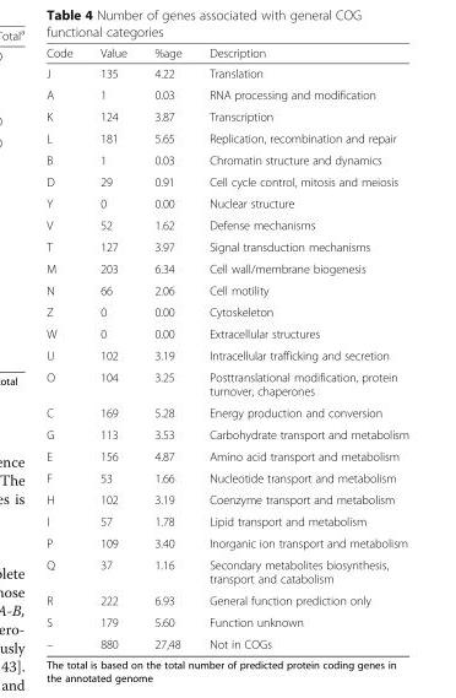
<table><thead><tr><td>Code</td><td>Value</td><td>%age</td><td>Description</td></tr></thead><tbody><tr><td>J</td><td>135</td><td>4.22</td><td>Translation</td></tr><tr><td>A</td><td>1</td><td>0.03</td><td>RNA processing and modification</td></tr><tr><td>K</td><td>124</td><td>3.87</td><td>Transcription</td></tr><tr><td>L</td><td>181</td><td>5.65</td><td>Replication, recombination and repair</td></tr><tr><td>B</td><td>1</td><td>0.03</td><td>Chromatin structure and dynamics</td></tr><tr><td>D</td><td>29</td><td>0.91</td><td>Cell cycle control, mitosis and meiosis</td></tr><tr><td>Y</td><td>0</td><td>0.00</td><td>Nuclear structure</td></tr><tr><td>V</td><td>52</td><td>1.62</td><td>Defense mechanisms</td></tr><tr><td>T</td><td>127</td><td>3.97</td><td>Signal transduction mechanisms</td></tr><tr><td>M</td><td>203</td><td>6.34</td><td>Cell wall/membrane biogenesis</td></tr><tr><td>N</td><td>66</td><td>2.06</td><td>Cell motility</td></tr><tr><td>Z</td><td>0</td><td>0.00</td><td>Cytoskeleton</td></tr><tr><td>W</td><td>0</td><td>0.00</td><td>Extracellular structures</td></tr><tr><td>U</td><td>102</td><td>3.19</td><td>Intracellular trafficking and secretion</td></tr><tr><td>O</td><td>104</td><td>3.25</td><td>Posttranslational modification, protein turnover, chaperones</td></tr><tr><td>C</td><td>169</td><td>5.28</td><td>Energy production and conversion</td></tr><tr><td>G</td><td>113</td><td>3.53</td><td>Carbohydrate transport and metabolism</td></tr><tr><td>E</td><td>156</td><td>4.87</td><td>Amino acid transport and metabolism</td></tr><tr><td>F</td><td>53</td><td>1.66</td><td>Nucleotide transport and metabolism</td></tr><tr><td>H</td><td>102</td><td>3.19</td><td>Coenzyme transport and metabolism</td></tr><tr><td>I</td><td>57</td><td>1.78</td><td>Lipid transport and metabolism</td></tr><tr><td>P</td><td>109</td><td>3.40</td><td>Inorganic ion transport and metabolism</td></tr><tr><td>Q</td><td>37</td><td>1.16</td><td>Secondary metabolites biosynthesis, transport and catabolism</td></tr><tr><td>R</td><td>222</td><td>6.93</td><td>General function prediction only</td></tr><tr><td>S</td><td>179</td><td>5.60</td><td>Function unknown</td></tr><tr><td>–</td><td>880</td><td>27,48</td><td>Not in COGs</td></tr></tbody></table>